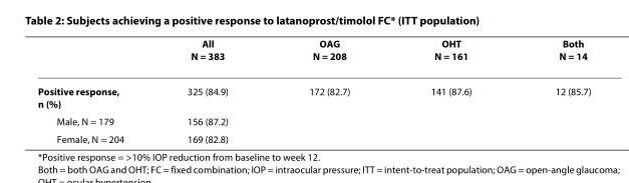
<table><thead><tr><td></td><td>All N = 383</td><td>OAG N = 208</td><td>OHT N = 161</td><td>Both N = 14</td></tr></thead><tbody><tr><td>Positive response, n (%)</td><td>325 (84.9)</td><td>172 (82.7)</td><td>141 (87.6)</td><td>12 (85.7)</td></tr><tr><td>Male, N = 179</td><td>156 (87.2)</td><td></td><td></td><td></td></tr><tr><td>Female, N = 204</td><td>169 (82.8)</td><td></td><td></td><td></td></tr></tbody></table>